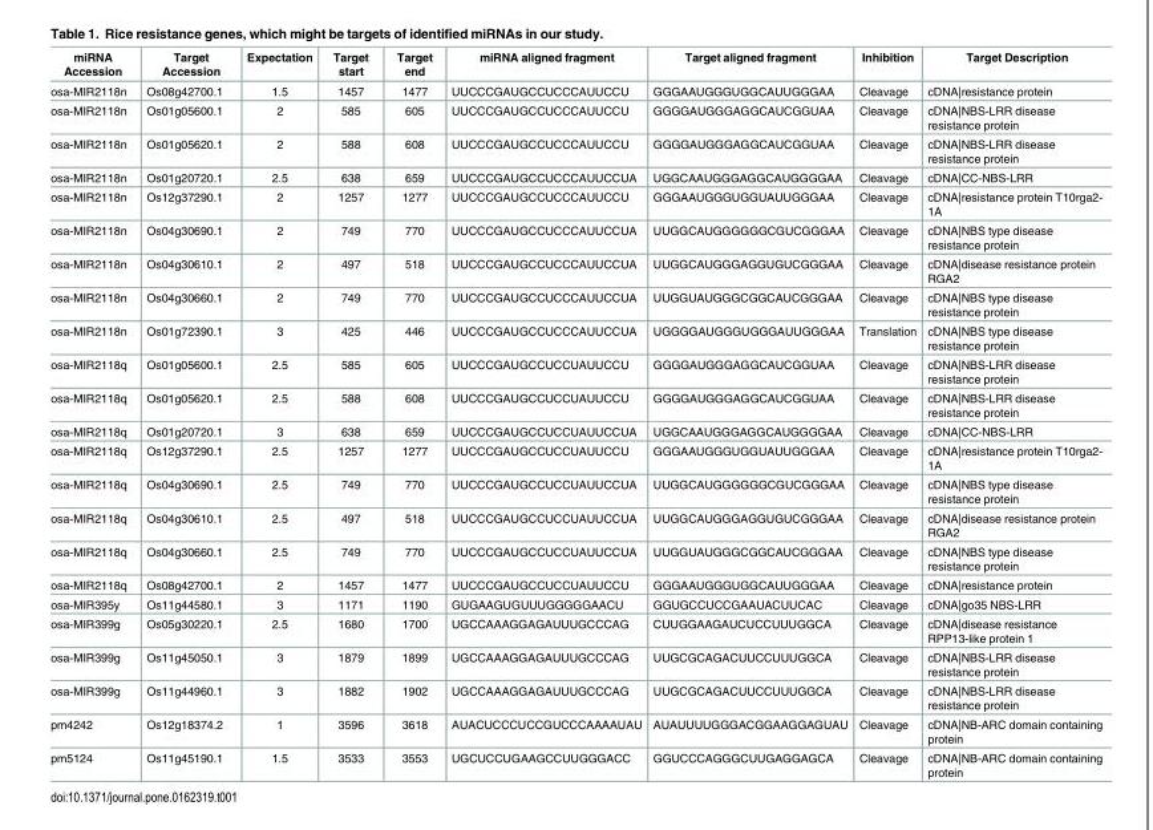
<table><thead><tr><td>miRNA Accession</td><td>Target Accession</td><td>Expectation</td><td>Target start</td><td>Target end</td><td>miRNA aligned fragment</td><td>Target aligned fragment</td><td>Inhibition</td><td>Target Description</td></tr></thead><tbody><tr><td>osa-MIR2118n</td><td>Os08g42700.1</td><td>1.5</td><td>1457</td><td>1477</td><td>UUCCCGAUGCCUCCCAUUCCU</td><td>GGGAAUGGGUGGCAUUGGGAA</td><td>Cleavage</td><td>cDNA|resistance protein</td></tr><tr><td>osa-MIR2118n</td><td>Os01g05600.1</td><td>2</td><td>585</td><td>605</td><td>UUCCCGAUGCCUCCCAUUCCU</td><td>GGGGAUGGGAGGCAUCGGUAA</td><td>Cleavage</td><td>cDNA|NBS-LRR disease resistance protein</td></tr><tr><td>osa-MIR2118n</td><td>Os01g05620.1</td><td>2</td><td>588</td><td>608</td><td>UUCCCGAUGCCUCCCAUUCCU</td><td>GGGGAUGGGAGGCAUCGGUAA</td><td>Cleavage</td><td>cDNA|NBS-LRR disease resistance protein</td></tr><tr><td>osa-MIR2118n</td><td>Os01g20720.1</td><td>2.5</td><td>638</td><td>659</td><td>UUCCCGAUGCCUCCCAUUCCUA</td><td>UGGCAAUGGGAGGCAUGGGGAA</td><td>Cleavage</td><td>cDNA|CC-NBS-LRR</td></tr><tr><td>osa-MIR2118n</td><td>Os12g37290.1</td><td>2</td><td>1257</td><td>1277</td><td>UUCCCGAUGCCUCCCAUUCCU</td><td>GGGAAUGGGUGGUAUUGGGAA</td><td>Cleavage</td><td>cDNA|resistance protein T10rga2- 1A</td></tr><tr><td>osa-MIR2118n</td><td>Os04g30690.1</td><td>2</td><td>749</td><td>770</td><td>UUCCCGAUGCCUCCCAUUCCUA</td><td>UUGGCAUGGGGGGCGUCGGGAA</td><td>Cleavage</td><td>cDNA|NBS type disease resistance protein</td></tr><tr><td>osa-MIR2118n</td><td>Os04g30610.1</td><td>2</td><td>497</td><td>518</td><td>UUCCCGAUGCCUCCCAUUCCUA</td><td>UUGGCAUGGGAGGUGUCGGGAA</td><td>Cleavage</td><td>cDNA|disease resistance protein RGA2</td></tr><tr><td>osa-MIR2118n</td><td>Os04g30660.1</td><td>2</td><td>749</td><td>770</td><td>UUCCCGAUGCCUCCCAUUCCUA</td><td>UUGGUAUGGGCGGCAUCGGGAA</td><td>Cleavage</td><td>cDNA|NBS type disease resistance protein</td></tr><tr><td>osa-MIR2118n</td><td>Os01g72390.1</td><td>3</td><td>425</td><td>446</td><td>UUCCCGAUGCCUCCCAUUCCUA</td><td>UGGGGAUGGGUGGGAUUGGGAA</td><td>Translation</td><td>cDNA|NBS type disease resistance protein</td></tr><tr><td>osa-MIR2118q</td><td>Os01g05600.1</td><td>2.5</td><td>585</td><td>605</td><td>UUCCCGAUGCCUCCUAUUCCU</td><td>GGGGAUGGGAGGCAUCGGUAA</td><td>Cleavage</td><td>cDNA|NBS-LRR disease resistance protein</td></tr><tr><td>osa-MIR2118q</td><td>Os01g05620.1</td><td>2.5</td><td>588</td><td>608</td><td>UUCCCGAUGCCUCCUAUUCCU</td><td>GGGGAUGGGAGGCAUCGGUAA</td><td>Cleavage</td><td>cDNA|NBS-LRR disease resistance protein</td></tr><tr><td>osa-MIR2118q</td><td>Os01g20720.1</td><td>3</td><td>638</td><td>659</td><td>UUCCCGAUGCCUCCUAUUCCUA</td><td>UGGCAAUGGGAGGCAUGGGGAA</td><td>Cleavage</td><td>cDNA|CC-NBS-LRR</td></tr><tr><td>osa-MIR2118q</td><td>Os12g37290.1</td><td>2.5</td><td>1257</td><td>1277</td><td>UUCCCGAUGCCUCCUAUUCCU</td><td>GGGAAUGGGUGGUAUUGGGAA</td><td>Cleavage</td><td>cDNA|resistance protein T10rga2- 1A</td></tr><tr><td>osa-MIR2118q</td><td>Os04g30690.1</td><td>2.5</td><td>749</td><td>770</td><td>UUCCCGAUGCCUCCUAUUCCUA</td><td>UUGGCAUGGGGGGCGUCGGGAA</td><td>Cleavage</td><td>cDNA|NBS type disease resistance protein</td></tr><tr><td>osa-MIR2118q</td><td>Os04g30610.1</td><td>2.5</td><td>497</td><td>518</td><td>UUCCCGAUGCCUCCUAUUCCUA</td><td>UUGGCAUGGGAGGUGUCGGGAA</td><td>Cleavage</td><td>cDNA|disease resistance protein RGA2</td></tr><tr><td>osa-MIR2118q</td><td>Os04g30660.1</td><td>2.5</td><td>749</td><td>770</td><td>UUCCCGAUGCCUCCUAUUCCUA</td><td>UUGGUAUGGGCGGCAUCGGGAA</td><td>Cleavage</td><td>cDNA|NBS type disease resistance protein</td></tr><tr><td>osa-MIR2118q</td><td>Os08g42700.1</td><td>2</td><td>1457</td><td>1477</td><td>UUCCCGAUGCCUCCUAUUCCU</td><td>GGGAAUGGGUGGCAUUGGGAA</td><td>Cleavage</td><td>cDNA|resistance protein</td></tr><tr><td>osa-MIR395y</td><td>Os11g44580.1</td><td>3</td><td>1171</td><td>1190</td><td>GUGAAGUGUUUGGGGGAACU</td><td>GGUGCCUCCGAAUACUUCAC</td><td>Cleavage</td><td>cDNA|go35 NBS-LRR</td></tr><tr><td>osa-MIR399g</td><td>Os05g30220.1</td><td>2.5</td><td>1680</td><td>1700</td><td>UGCCAAAGGAGAUUUGCCCAG</td><td>CUUGGAAGAUCUCCUUUGGCA</td><td>Cleavage</td><td>cDNA|disease resistance RPP13-like protein 1</td></tr><tr><td>osa-MIR399g</td><td>Os11g45050.1</td><td>3</td><td>1879</td><td>1899</td><td>UGCCAAAGGAGAUUUGCCCAG</td><td>UUGCGCAGACUUCCUUUGGCA</td><td>Cleavage</td><td>cDNA|NBS-LRR disease resistance protein</td></tr><tr><td>osa-MIR399g</td><td>Os11g44960.1</td><td>3</td><td>1882</td><td>1902</td><td>UGCCAAAGGAGAUUUGCCCAG</td><td>UUGCGCAGACUUCCUUUGGCA</td><td>Cleavage</td><td>cDNA|NBS-LRR disease resistance protein</td></tr><tr><td>pm4242</td><td>Os12g18374.2</td><td>1</td><td>3596</td><td>3618</td><td>AUACUCCCUCCGUCCCAAAAUAU</td><td>AUAUUUUGGGACGGAAGGAGUAU</td><td>Cleavage</td><td>cDNA|NB-ARC domain containing protein</td></tr><tr><td>pm5124</td><td>Os11g45190.1</td><td>1.5</td><td>3533</td><td>3553</td><td>UGCUCCUGAAGCCUUGGGACC</td><td>GGUCCCAGGGCUUGAGGAGCA</td><td>Cleavage</td><td>cDNA|NB-ARC domain containing protein</td></tr></tbody></table>